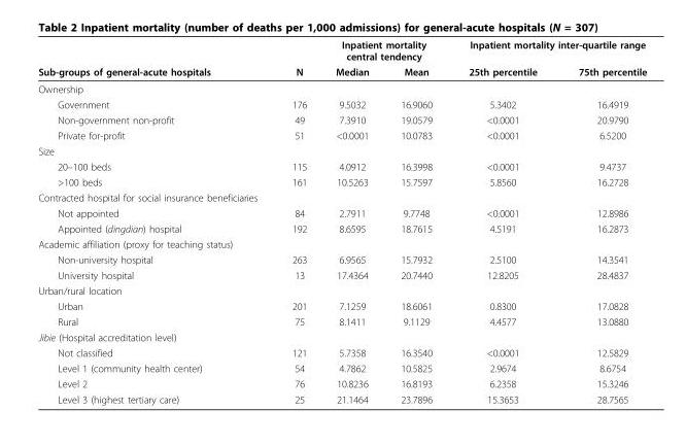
<table><thead><tr><td rowspan="2">Sub-groups of general-acute hospitals</td><td rowspan="2">N</td><td colspan="2">Inpatient mortality central tendency</td><td colspan="2">Inpatient mortality inter-quartile range</td></tr><tr><td>Median</td><td>Mean</td><td>25th percentile</td><td>75th percentile</td></tr></thead><tbody><tr><td colspan="6">Ownership</td></tr><tr><td>Government</td><td>176</td><td>9.5032</td><td>16.9060</td><td>5.3402</td><td>16.4919</td></tr><tr><td>Non-government non-profit</td><td>49</td><td>7.3910</td><td>19.0579</td><td>&lt;0.0001</td><td>20.9790</td></tr><tr><td>Private for-profit</td><td>51</td><td>&lt;0.0001</td><td>10.0783</td><td>&lt;0.0001</td><td>6.5200</td></tr><tr><td colspan="6">Size</td></tr><tr><td>20–100 beds</td><td>115</td><td>4.0912</td><td>16.3998</td><td>&lt;0.0001</td><td>9.4737</td></tr><tr><td>&gt;100 beds</td><td>161</td><td>10.5263</td><td>15.7597</td><td>5.8560</td><td>16.2728</td></tr><tr><td colspan="6">Contracted hospital for social insurance beneficiaries</td></tr><tr><td>Not appointed</td><td>84</td><td>2.7911</td><td>9.7748</td><td>&lt;0.0001</td><td>12.8986</td></tr><tr><td>Appointed (dingdian) hospital</td><td>192</td><td>8.6595</td><td>18.7615</td><td>4.5191</td><td>16.2873</td></tr><tr><td colspan="6">Academic affiliation (proxy for teaching status)</td></tr><tr><td>Non-university hospital</td><td>263</td><td>6.9565</td><td>15.7932</td><td>2.5100</td><td>14.3541</td></tr><tr><td>University hospital</td><td>13</td><td>17.4364</td><td>20.7440</td><td>12.8205</td><td>28.4837</td></tr><tr><td colspan="6">Urban/rural location</td></tr><tr><td>Urban</td><td>201</td><td>7.1259</td><td>18.6061</td><td>0.8300</td><td>17.0828</td></tr><tr><td>Rural</td><td>75</td><td>8.1411</td><td>9.1129</td><td>4.4577</td><td>13.0880</td></tr><tr><td colspan="6">Jibie (Hospital accreditation level)</td></tr><tr><td>Not classified</td><td>121</td><td>5.7358</td><td>16.3540</td><td>&lt;0.0001</td><td>12.5829</td></tr><tr><td>Level 1 (community health center)</td><td>54</td><td>4.7862</td><td>10.5825</td><td>2.9674</td><td>8.6754</td></tr><tr><td>Level 2</td><td>76</td><td>10.8236</td><td>16.8193</td><td>6.2358</td><td>15.3246</td></tr><tr><td>Level 3 (highest tertiary care)</td><td>25</td><td>21.1464</td><td>23.7896</td><td>15.3653</td><td>28.7565</td></tr></tbody></table>